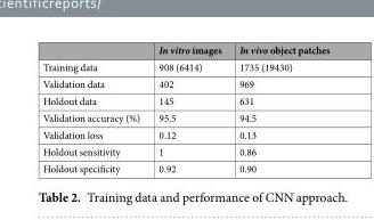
<table><thead><tr><td></td><td>In vitro images</td><td>In vivo object patches</td></tr></thead><tbody><tr><td>Training data</td><td>908 (6414)</td><td>1735 (19430)</td></tr><tr><td>Validation data</td><td>402</td><td>969</td></tr><tr><td>Holdout data</td><td>145</td><td>631</td></tr><tr><td>Validation accuracy (%)</td><td>95.5</td><td>94.5</td></tr><tr><td>Validation loss</td><td>0.12</td><td>0.13</td></tr><tr><td>Holdout sensitivity</td><td>1</td><td>0.86</td></tr><tr><td>Holdout specificity</td><td>0.92</td><td>0.90</td></tr></tbody></table>